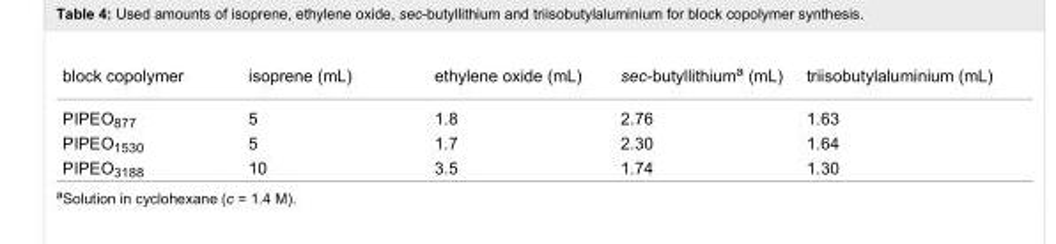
<table><tbody><tr><td>block copolymer</td><td>isoprene (mL)</td><td>ethylene oxide (mL)</td><td>sec-butyllithium<sup>a</sup> (mL)</td><td>triisobutylaluminium (mL)</td></tr><tr><td>PIPEO<sub>877</sub></td><td>5</td><td>1.8</td><td>2.76</td><td>1.63</td></tr><tr><td>PIPEO<sub>1530</sub></td><td>5</td><td>1.7</td><td>2.30</td><td>1.64</td></tr><tr><td>PIPEO<sub>3188</sub></td><td>10</td><td>3.5</td><td>1.74</td><td>1.30</td></tr></tbody></table>